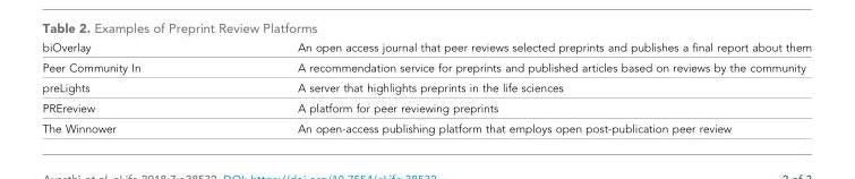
<table><tbody><tr><td>biOverlay</td><td>An open access journal that peer reviews selected preprints and publishes a final report about them</td></tr><tr><td>Peer Community In</td><td>A recommendation service for preprints and published articles based on reviews by the community</td></tr><tr><td>preLights</td><td>A server that highlights preprints in the life sciences</td></tr><tr><td>PREreview</td><td>A platform for peer reviewing preprints</td></tr><tr><td>The Winnower</td><td>An open-access publishing platform that employs open post-publication peer review</td></tr></tbody></table>